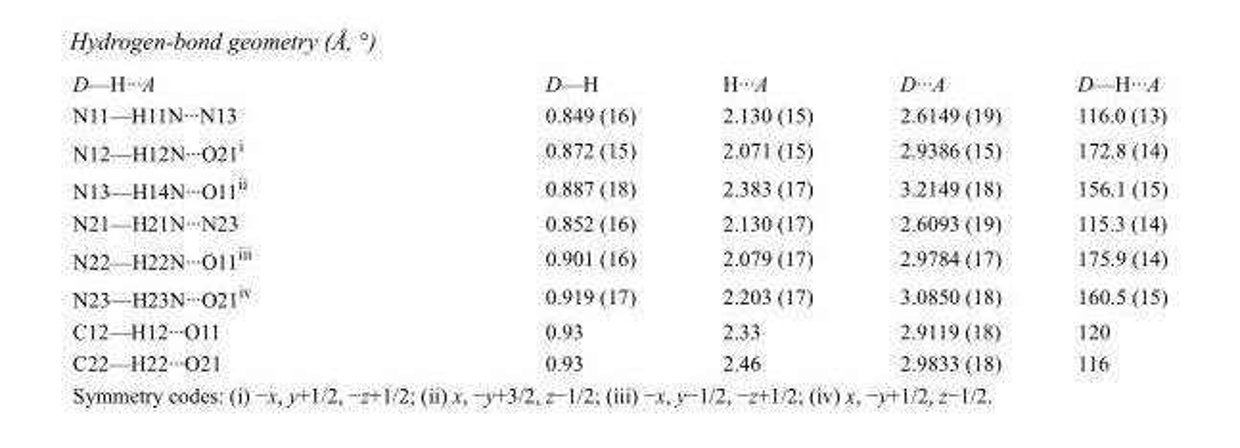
<table><tbody><tr><td>D—H···A</td><td>D—H</td><td>H···A</td><td>D···A</td><td>D—H···A</td></tr><tr><td>N11—H11N···N13</td><td>0.849 (16)</td><td>2.130 (15)</td><td>2.6149 (19)</td><td>116.0 (13)</td></tr><tr><td>N12—H12N···O21<sup>i</sup></td><td>0.872 (15)</td><td>2.071 (15)</td><td>2.9386 (15)</td><td>172.8 (14)</td></tr><tr><td>N13—H14N···O11<sup>ii</sup></td><td>0.887 (18)</td><td>2.383 (17)</td><td>3.2149 (18)</td><td>156.1 (15)</td></tr><tr><td>N21—H21N···N23</td><td>0.852 (16)</td><td>2.130 (17)</td><td>2.6093 (19)</td><td>115.3 (14)</td></tr><tr><td>N22—H22N···O11<sup>iii</sup></td><td>0.901 (16)</td><td>2.079 (17)</td><td>2.9784 (17)</td><td>175.9 (14)</td></tr><tr><td>N23—H23N···O21<sup>iv</sup></td><td>0.919 (17)</td><td>2.203 (17)</td><td>3.0850 (18)</td><td>160.5 (15)</td></tr><tr><td>C12—H12···O11</td><td>0.93</td><td>2.33</td><td>2.9119 (18)</td><td>120</td></tr><tr><td>C22—H22···O21</td><td>0.93</td><td>2.46</td><td>2.9833 (18)</td><td>116</td></tr></tbody></table>